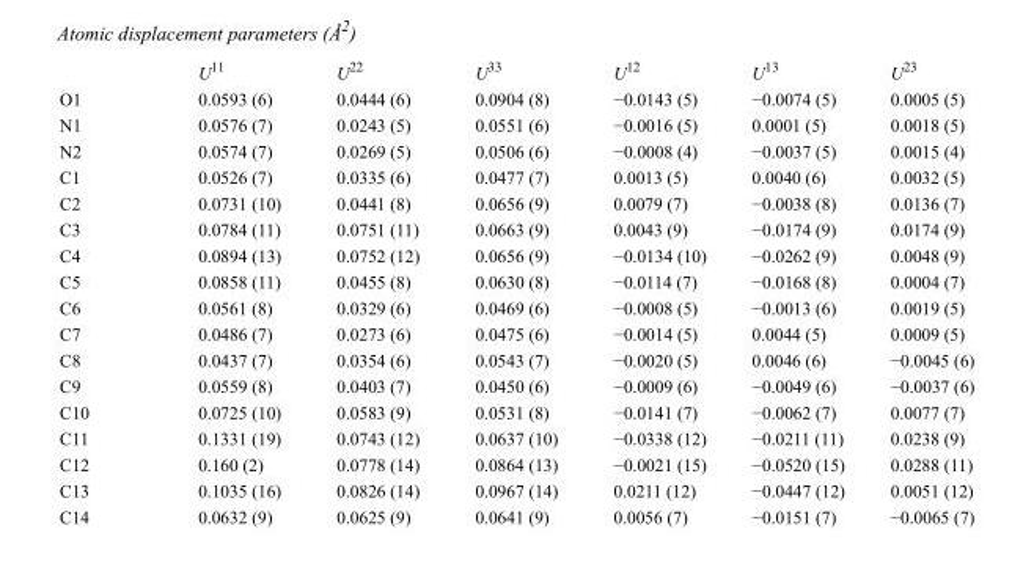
<table><thead><tr><td></td><td>U<sup>11</sup></td><td>U<sup>22</sup></td><td>U<sup>33</sup></td><td>U<sup>12</sup></td><td>U<sup>13</sup></td><td>U<sup>23</sup></td></tr></thead><tbody><tr><td>O1</td><td>0.0593 (6)</td><td>0.0444 (6)</td><td>0.0904 (8)</td><td>−0.0143 (5)</td><td>−0.0074 (5)</td><td>0.0005 (5)</td></tr><tr><td>N1</td><td>0.0576 (7)</td><td>0.0243 (5)</td><td>0.0551 (6)</td><td>−0.0016 (5)</td><td>0.0001 (5)</td><td>0.0018 (5)</td></tr><tr><td>N2</td><td>0.0574 (7)</td><td>0.0269 (5)</td><td>0.0506 (6)</td><td>−0.0008 (4)</td><td>−0.0037 (5)</td><td>0.0015 (4)</td></tr><tr><td>C1</td><td>0.0526 (7)</td><td>0.0335 (6)</td><td>0.0477 (7)</td><td>0.0013 (5)</td><td>0.0040 (6)</td><td>0.0032 (5)</td></tr><tr><td>C2</td><td>0.0731 (10)</td><td>0.0441 (8)</td><td>0.0656 (9)</td><td>0.0079 (7)</td><td>−0.0038 (8)</td><td>0.0136 (7)</td></tr><tr><td>C3</td><td>0.0784 (11)</td><td>0.0751 (11)</td><td>0.0663 (9)</td><td>0.0043 (9)</td><td>−0.0174 (9)</td><td>0.0174 (9)</td></tr><tr><td>C4</td><td>0.0894 (13)</td><td>0.0752 (12)</td><td>0.0656 (9)</td><td>−0.0134 (10)</td><td>−0.0262 (9)</td><td>0.0048 (9)</td></tr><tr><td>C5</td><td>0.0858 (11)</td><td>0.0455 (8)</td><td>0.0630 (8)</td><td>−0.0114 (7)</td><td>−0.0168 (8)</td><td>0.0004 (7)</td></tr><tr><td>C6</td><td>0.0561 (8)</td><td>0.0329 (6)</td><td>0.0469 (6)</td><td>−0.0008 (5)</td><td>−0.0013 (6)</td><td>0.0019 (5)</td></tr><tr><td>C7</td><td>0.0486 (7)</td><td>0.0273 (6)</td><td>0.0475 (6)</td><td>−0.0014 (5)</td><td>0.0044 (5)</td><td>0.0009 (5)</td></tr><tr><td>C8</td><td>0.0437 (7)</td><td>0.0354 (6)</td><td>0.0543 (7)</td><td>−0.0020 (5)</td><td>0.0046 (6)</td><td>−0.0045 (6)</td></tr><tr><td>C9</td><td>0.0559 (8)</td><td>0.0403 (7)</td><td>0.0450 (6)</td><td>−0.0009 (6)</td><td>−0.0049 (6)</td><td>−0.0037 (6)</td></tr><tr><td>C10</td><td>0.0725 (10)</td><td>0.0583 (9)</td><td>0.0531 (8)</td><td>−0.0141 (7)</td><td>−0.0062 (7)</td><td>0.0077 (7)</td></tr><tr><td>C11</td><td>0.1331 (19)</td><td>0.0743 (12)</td><td>0.0637 (10)</td><td>−0.0338 (12)</td><td>−0.0211 (11)</td><td>0.0238 (9)</td></tr><tr><td>C12</td><td>0.160 (2)</td><td>0.0778 (14)</td><td>0.0864 (13)</td><td>−0.0021 (15)</td><td>−0.0520 (15)</td><td>0.0288 (11)</td></tr><tr><td>C13</td><td>0.1035 (16)</td><td>0.0826 (14)</td><td>0.0967 (14)</td><td>0.0211 (12)</td><td>−0.0447 (12)</td><td>0.0051 (12)</td></tr><tr><td>C14</td><td>0.0632 (9)</td><td>0.0625 (9)</td><td>0.0641 (9)</td><td>0.0056 (7)</td><td>−0.0151 (7)</td><td>−0.0065 (7)</td></tr></tbody></table>